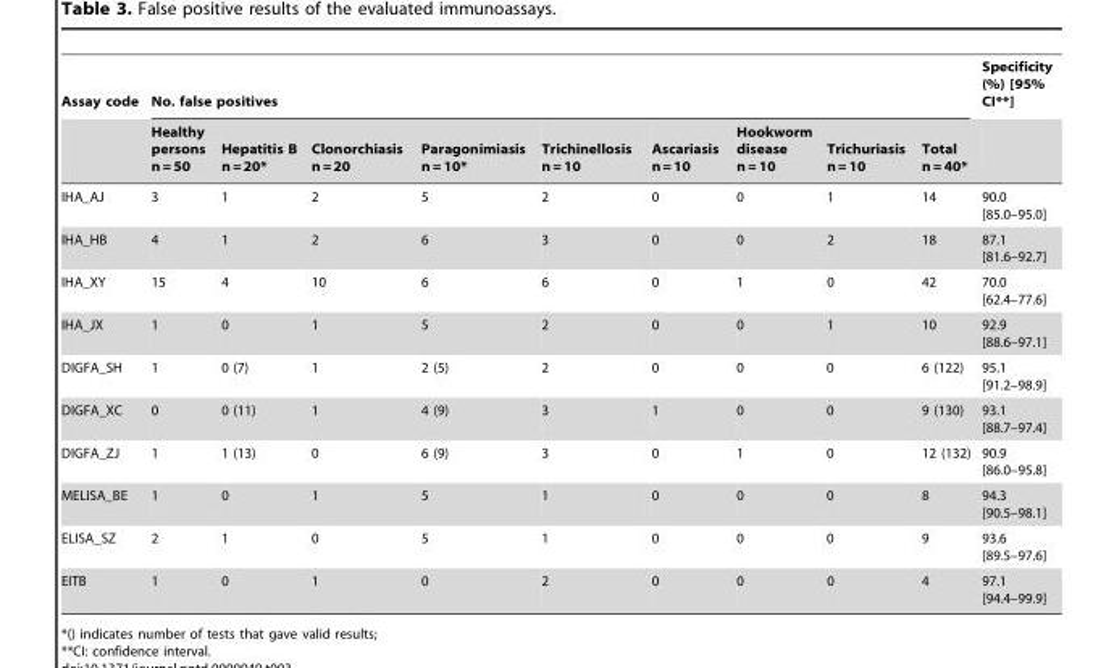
<table><thead><tr><td rowspan="2">Assay code</td><td colspan="9">No. false positives</td><td rowspan="2">Specificity (%) [95% CI**]</td></tr><tr><td>Healthy persons n = 50</td><td>Hepatitis B n = 20*</td><td>Clonorchiasis n = 20</td><td>Paragonimiasis n = 10*</td><td>Trichinellosis n = 10</td><td>Ascariasis n = 10</td><td>Hookworm disease n = 10</td><td>Trichuriasis n = 10</td><td>Total n = 40*</td></tr></thead><tbody><tr><td>IHA_AJ</td><td>3</td><td>1</td><td>2</td><td>5</td><td>2</td><td>0</td><td>0</td><td>1</td><td>14</td><td>90.0 [85.0–95.0]</td></tr><tr><td>IHA_HB</td><td>4</td><td>1</td><td>2</td><td>6</td><td>3</td><td>0</td><td>0</td><td>2</td><td>18</td><td>87.1 [81.6–92.7]</td></tr><tr><td>IHA_XY</td><td>15</td><td>4</td><td>10</td><td>6</td><td>6</td><td>0</td><td>1</td><td>0</td><td>42</td><td>70.0 [62.4–77.6]</td></tr><tr><td>IHA_JX</td><td>1</td><td>0</td><td>1</td><td>5</td><td>2</td><td>0</td><td>0</td><td>1</td><td>10</td><td>92.9 [88.6–97.1]</td></tr><tr><td>DIGFA_SH</td><td>1</td><td>0 (7)</td><td>1</td><td>2 (5)</td><td>2</td><td>0</td><td>0</td><td>0</td><td>6 (122)</td><td>95.1 [91.2–98.9]</td></tr><tr><td>DIGFA_XC</td><td>0</td><td>0 (11)</td><td>1</td><td>4 (9)</td><td>3</td><td>1</td><td>0</td><td>0</td><td>9 (130)</td><td>93.1 [88.7–97.4]</td></tr><tr><td>DIGFA_ZJ</td><td>1</td><td>1 (13)</td><td>0</td><td>6 (9)</td><td>3</td><td>0</td><td>1</td><td>0</td><td>12 (132)</td><td>90.9 [86.0–95.8]</td></tr><tr><td>MELISA_BE</td><td>1</td><td>0</td><td>1</td><td>5</td><td>1</td><td>0</td><td>0</td><td>0</td><td>8</td><td>94.3 [90.5–98.1]</td></tr><tr><td>ELISA_SZ</td><td>2</td><td>1</td><td>0</td><td>5</td><td>1</td><td>0</td><td>0</td><td>0</td><td>9</td><td>93.6 [89.5–97.6]</td></tr><tr><td>EITB</td><td>1</td><td>0</td><td>1</td><td>0</td><td>2</td><td>0</td><td>0</td><td>0</td><td>4</td><td>97.1 [94.4–99.9]</td></tr></tbody></table>